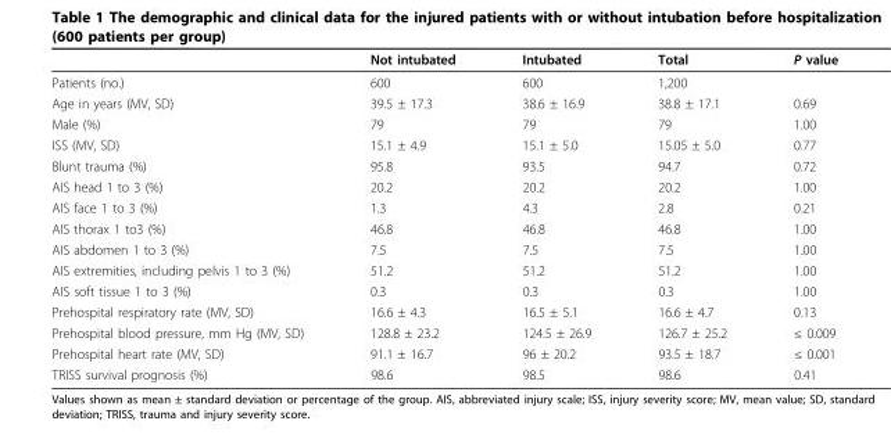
<table><thead><tr><td></td><td>Not intubated</td><td>Intubated</td><td>Total</td><td>P value</td></tr></thead><tbody><tr><td>Patients (no.)</td><td>600</td><td>600</td><td>1,200</td><td></td></tr><tr><td>Age in years (MV, SD)</td><td>39.5 ± 17.3</td><td>38.6 ± 16.9</td><td>38.8 ± 17.1</td><td>0.69</td></tr><tr><td>Male (%)</td><td>79</td><td>79</td><td>79</td><td>1.00</td></tr><tr><td>ISS (MV, SD)</td><td>15.1 ± 4.9</td><td>15.1 ± 5.0</td><td>15.05 ± 5.0</td><td>0.77</td></tr><tr><td>Blunt trauma (%)</td><td>95.8</td><td>93.5</td><td>94.7</td><td>0.72</td></tr><tr><td>AIS head 1 to 3 (%)</td><td>20.2</td><td>20.2</td><td>20.2</td><td>1.00</td></tr><tr><td>AIS face 1 to 3 (%)</td><td>1.3</td><td>4.3</td><td>2.8</td><td>0.21</td></tr><tr><td>AIS thorax 1 to3 (%)</td><td>46.8</td><td>46.8</td><td>46.8</td><td>1.00</td></tr><tr><td>AIS abdomen 1 to 3 (%)</td><td>7.5</td><td>7.5</td><td>7.5</td><td>1.00</td></tr><tr><td>AIS extremities, including pelvis 1 to 3 (%)</td><td>51.2</td><td>51.2</td><td>51.2</td><td>1.00</td></tr><tr><td>AIS soft tissue 1 to 3 (%)</td><td>0.3</td><td>0.3</td><td>0.3</td><td>1.00</td></tr><tr><td>Prehospital respiratory rate (MV, SD)</td><td>16.6 ± 4.3</td><td>16.5 ± 5.1</td><td>16.6 ± 4.7</td><td>0.13</td></tr><tr><td>Prehospital blood pressure, mm Hg (MV, SD)</td><td>128.8 ± 23.2</td><td>124.5 ± 26.9</td><td>126.7 ± 25.2</td><td>≤ 0.009</td></tr><tr><td>Prehospital heart rate (MV, SD)</td><td>91.1 ± 16.7</td><td>96 ± 20.2</td><td>93.5 ± 18.7</td><td>≤ 0.001</td></tr><tr><td>TRISS survival prognosis (%)</td><td>98.6</td><td>98.5</td><td>98.6</td><td>0.41</td></tr></tbody></table>